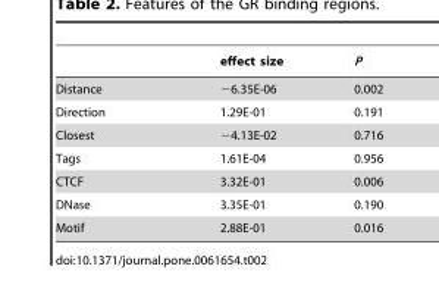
<table><thead><tr><td></td><td>effect size</td><td>P</td></tr></thead><tbody><tr><td>Distance</td><td>−6.35E-06</td><td>0.002</td></tr><tr><td>Direction</td><td>1.29E-01</td><td>0.191</td></tr><tr><td>Closest</td><td>−4.13E-02</td><td>0.716</td></tr><tr><td>Tags</td><td>1.61E-04</td><td>0.956</td></tr><tr><td>CTCF</td><td>3.32E-01</td><td>0.006</td></tr><tr><td>DNase</td><td>3.35E-01</td><td>0.190</td></tr><tr><td>Motif</td><td>2.88E-01</td><td>0.016</td></tr></tbody></table>